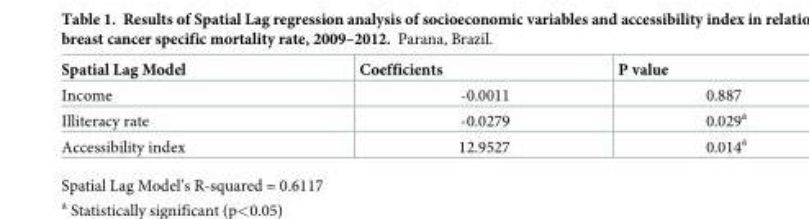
<table><thead><tr><td>Spatial Lag Model</td><td>Coefficients</td><td>P value</td></tr></thead><tbody><tr><td>Income</td><td>-0.0011</td><td>0.887</td></tr><tr><td>Illiteracy rate</td><td>-0.0279</td><td>0.029<sup>a</sup></td></tr><tr><td>Accessibility index</td><td>12.9527</td><td>0.014<sup>a</sup></td></tr></tbody></table>